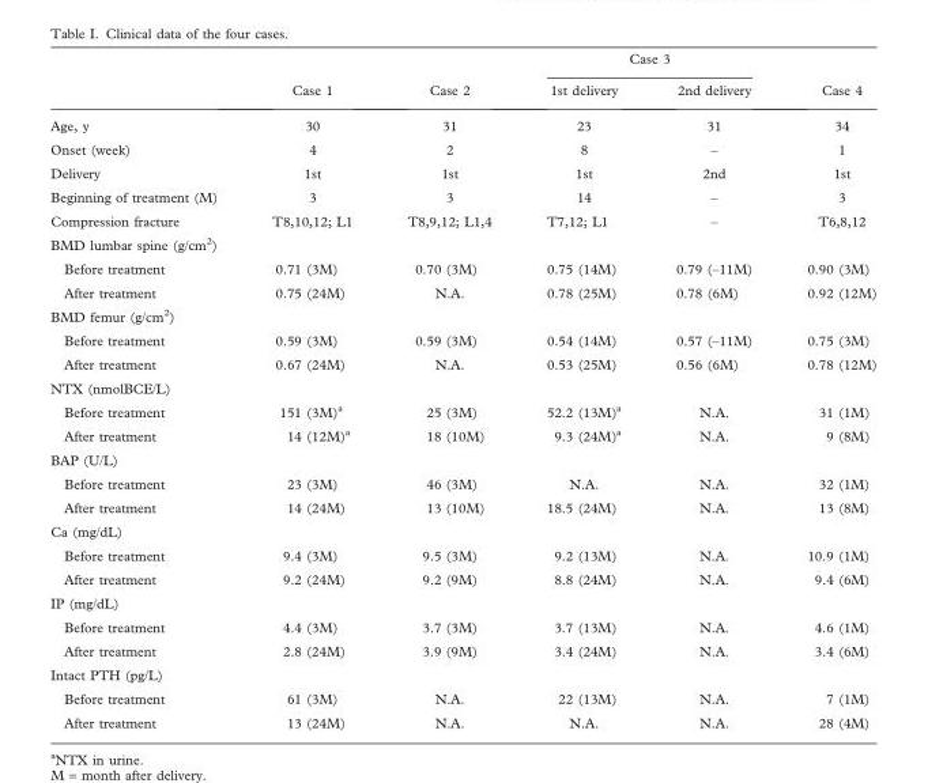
<table><thead><tr><td rowspan="2"></td><td rowspan="2">Case 1</td><td rowspan="2">Case 2</td><td colspan="2">Case 3</td><td rowspan="2">Case 4</td></tr><tr><td>1st delivery</td><td>2nd delivery</td></tr></thead><tbody><tr><td>Age, y</td><td>30</td><td>31</td><td>23</td><td>31</td><td>34</td></tr><tr><td>Onset (week)</td><td>4</td><td>2</td><td>8</td><td>–</td><td>1</td></tr><tr><td>Delivery</td><td>1st</td><td>1st</td><td>1st</td><td>2nd</td><td>1st</td></tr><tr><td>Beginning of treatment (M)</td><td>3</td><td>3</td><td>14</td><td>–</td><td>3</td></tr><tr><td>Compression fracture</td><td>T8,10,12; L1</td><td>T8,9,12; L1,4</td><td>T7,12; L1</td><td>–</td><td>T6,8,12</td></tr><tr><td colspan="6">BMD lumbar spine (g/cm<sup>2</sup>)</td></tr><tr><td>Before treatment</td><td>0.71 (3M)</td><td>0.70 (3M)</td><td>0.75 (14M)</td><td>0.79 (–11M)</td><td>0.90 (3M)</td></tr><tr><td>After treatment</td><td>0.75 (24M)</td><td>N.A.</td><td>0.78 (25M)</td><td>0.78 (6M)</td><td>0.92 (12M)</td></tr><tr><td colspan="6">BMD femur (g/cm<sup>2</sup>)</td></tr><tr><td>Before treatment</td><td>0.59 (3M)</td><td>0.59 (3M)</td><td>0.54 (14M)</td><td>0.57 (–11M)</td><td>0.75 (3M)</td></tr><tr><td>After treatment</td><td>0.67 (24M)</td><td>N.A.</td><td>0.53 (25M)</td><td>0.56 (6M)</td><td>0.78 (12M)</td></tr><tr><td colspan="6">NTX (nmolBCE/L)</td></tr><tr><td>Before treatment</td><td>151 (3M)<sup>a</sup></td><td>25 (3M)</td><td>52.2 (13M)<sup>a</sup></td><td>N.A.</td><td>31 (1M)</td></tr><tr><td>After treatment</td><td>14 (12M)<sup>a</sup></td><td>18 (10M)</td><td>9.3 (24M)<sup>a</sup></td><td>N.A.</td><td>9 (8M)</td></tr><tr><td colspan="6">BAP (U/L)</td></tr><tr><td>Before treatment</td><td>23 (3M)</td><td>46 (3M)</td><td>N.A.</td><td>N.A.</td><td>32 (1M)</td></tr><tr><td>After treatment</td><td>14 (24M)</td><td>13 (10M)</td><td>18.5 (24M)</td><td>N.A.</td><td>13 (8M)</td></tr><tr><td colspan="6">Ca (mg/dL)</td></tr><tr><td>Before treatment</td><td>9.4 (3M)</td><td>9.5 (3M)</td><td>9.2 (13M)</td><td>N.A.</td><td>10.9 (1M)</td></tr><tr><td>After treatment</td><td>9.2 (24M)</td><td>9.2 (9M)</td><td>8.8 (24M)</td><td>N.A.</td><td>9.4 (6M)</td></tr><tr><td colspan="6">IP (mg/dL)</td></tr><tr><td>Before treatment</td><td>4.4 (3M)</td><td>3.7 (3M)</td><td>3.7 (13M)</td><td>N.A.</td><td>4.6 (1M)</td></tr><tr><td>After treatment</td><td>2.8 (24M)</td><td>3.9 (9M)</td><td>3.4 (24M)</td><td>N.A.</td><td>3.4 (6M)</td></tr><tr><td colspan="6">Intact PTH (pg/L)</td></tr><tr><td>Before treatment</td><td>61 (3M)</td><td>N.A.</td><td>22 (13M)</td><td>N.A.</td><td>7 (1M)</td></tr><tr><td>After treatment</td><td>13 (24M)</td><td>N.A.</td><td>N.A.</td><td>N.A.</td><td>28 (4M)</td></tr></tbody></table>